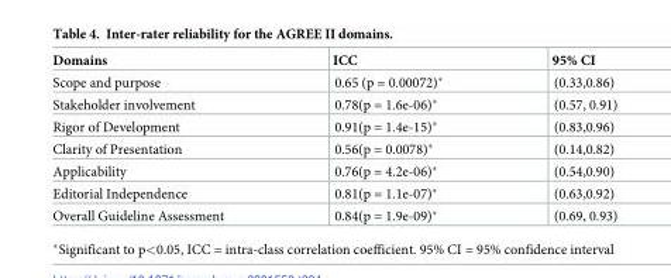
<table><thead><tr><td>Domains</td><td>ICC</td><td>95% CI</td></tr></thead><tbody><tr><td>Scope and purpose</td><td>0.65 (p = 0.00072)*</td><td>(0.33,0.86)</td></tr><tr><td>Stakeholder involvement</td><td>0.78(p = 1.6e-06)*</td><td>(0.57, 0.91)</td></tr><tr><td>Rigor of Development</td><td>0.91(p = 1.4e-15)*</td><td>(0.83,0.96)</td></tr><tr><td>Clarity of Presentation</td><td>0.56(p = 0.0078)*</td><td>(0.14,0.82)</td></tr><tr><td>Applicability</td><td>0.76(p = 4.2e-06)*</td><td>(0.54,0.90)</td></tr><tr><td>Editorial Independence</td><td>0.81(p = 1.1e-07)*</td><td>(0.63,0.92)</td></tr><tr><td>Overall Guideline Assessment</td><td>0.84(p = 1.9e-09)*</td><td>(0.69, 0.93)</td></tr></tbody></table>